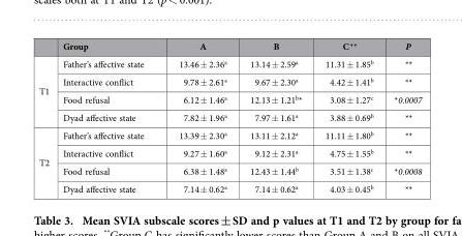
<table><thead><tr><td></td><td>Group</td><td>A</td><td>B</td><td>C**</td><td>P</td></tr></thead><tbody><tr><td rowspan="4">T1</td><td>Father’s affective state</td><td>13.46 ± 2.36<sup>a</sup></td><td>13.14 ± 2.59<sup>a</sup></td><td>11.31 ± 1.85<sup>b</sup></td><td>**</td></tr><tr><td>Interactive conflict</td><td>9.78 ± 2.61<sup>a</sup></td><td>9.67 ± 2.30<sup>a</sup></td><td>4.42 ± 1.41<sup>b</sup></td><td>**</td></tr><tr><td>Food refusal</td><td>6.12 ± 1.46<sup>a</sup></td><td>12.13 ± 1.21<sup>b</sup>*</td><td>3.08 ± 1.27<sup>c</sup></td><td>*0.0007</td></tr><tr><td>Dyad affective state</td><td>7.82 ± 1.96<sup>a</sup></td><td>7.97 ± 1.61<sup>a</sup></td><td>3.88 ± 0.69<sup>b</sup></td><td>**</td></tr><tr><td rowspan="4">T2</td><td>Father’s affective state</td><td>13.39 ± 2.30<sup>a</sup></td><td>13.11 ± 2.12<sup>a</sup></td><td>11.11 ± 1.80<sup>b</sup></td><td>**</td></tr><tr><td>Interactive conflict</td><td>9.27 ± 1.60<sup>a</sup></td><td>9.12 ± 2.31<sup>a</sup></td><td>4.75 ± 1.55<sup>b</sup></td><td>**</td></tr><tr><td>Food refusal</td><td>6.38 ± 1.48<sup>a</sup></td><td>12.43 ± 1.44<sup>b</sup></td><td>3.51 ± 1.38<sup>c</sup></td><td>*0.0008</td></tr><tr><td>Dyad affective state</td><td>7.14 ± 0.62<sup>a</sup></td><td>7.14 ± 0.62<sup>a</sup></td><td>4.03 ± 0.45<sup>b</sup></td><td>**</td></tr></tbody></table>